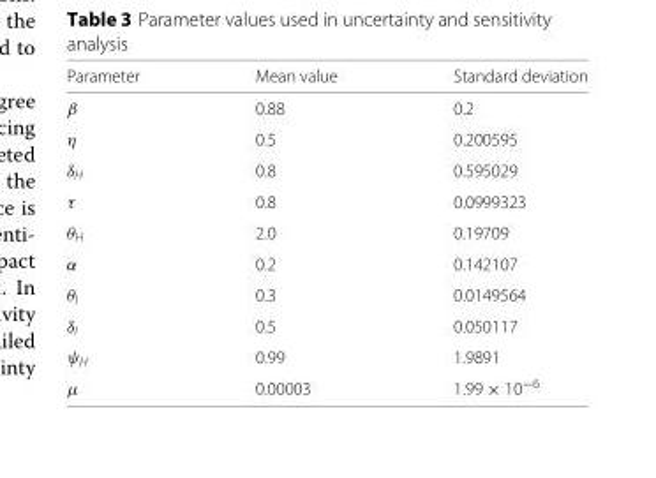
<table><thead><tr><td>Parameter</td><td>Mean value</td><td>Standard deviation</td></tr></thead><tbody><tr><td>β</td><td>0.88</td><td>0.2</td></tr><tr><td>η</td><td>0.5</td><td>0.200595</td></tr><tr><td>δ<sub>H</sub></td><td>0.8</td><td>0.595029</td></tr><tr><td>τ</td><td>0.8</td><td>0.0999323</td></tr><tr><td>θ<sub>H</sub></td><td>2.0</td><td>0.19709</td></tr><tr><td>α</td><td>0.2</td><td>0.142107</td></tr><tr><td>θ<sub>I</sub></td><td>0.3</td><td>0.0149564</td></tr><tr><td>δ<sub>I</sub></td><td>0.5</td><td>0.050117</td></tr><tr><td>ψ<sub>H</sub></td><td>0.99</td><td>1.9891</td></tr><tr><td>μ</td><td>0.00003</td><td>1.99 × 10<sup>−6</sup></td></tr></tbody></table>